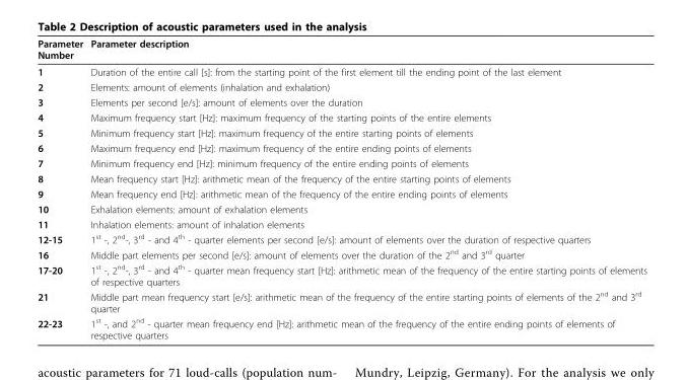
<table><thead><tr><td>Parameter Number</td><td>Parameter description</td></tr></thead><tbody><tr><td>1</td><td>Duration of the entire call [s]: from the starting point of the first element till the ending point of the last element</td></tr><tr><td>2</td><td>Elements: amount of elements (inhalation and exhalation)</td></tr><tr><td>3</td><td>Elements per second [e/s]: amount of elements over the duration</td></tr><tr><td>4</td><td>Maximum frequency start [Hz]: maximum frequency of the starting points of the entire elements</td></tr><tr><td>5</td><td>Minimum frequency start [Hz]: maximum frequency of the entire starting points of elements</td></tr><tr><td>6</td><td>Maximum frequency end [Hz]: maximum frequency of the entire ending points of elements</td></tr><tr><td>7</td><td>Minimum frequency end [Hz]: minimum frequency of the entire ending points of elements</td></tr><tr><td>8</td><td>Mean frequency start [Hz]: arithmetic mean of the frequency of the entire starting points of elements</td></tr><tr><td>9</td><td>Mean frequency end [Hz]: arithmetic mean of the frequency of the entire ending points of elements</td></tr><tr><td>10</td><td>Exhalation elements: amount of exhalation elements</td></tr><tr><td>11</td><td>Inhalation elements: amount of inhalation elements</td></tr><tr><td>12-15</td><td>1<sup>st</sup> -, 2<sup>nd</sup>-, 3<sup>rd</sup> - and 4<sup>th</sup> - quarter elements per second [e/s]: amount of elements over the duration of respective quarters</td></tr><tr><td>16</td><td>Middle part elements per second [e/s]: amount of elements over the duration of the 2<sup>nd</sup> and 3<sup>rd</sup> quarter</td></tr><tr><td>17-20</td><td>1<sup>st</sup> -, 2<sup>nd</sup>-, 3<sup>rd</sup> - and 4<sup>th</sup> - quarter mean frequency start [Hz]: arithmetic mean of the frequency of the entire starting points of elements of respective quarters</td></tr><tr><td>21</td><td>Middle part mean frequency start [e/s]: arithmetic mean of the frequency of the entire starting points of elements of the 2<sup>nd</sup> and 3<sup>rd</sup> quarter</td></tr><tr><td>22-23</td><td>1<sup>st</sup> -, and 2<sup>nd</sup> - quarter mean frequency end [Hz]: arithmetic mean of the frequency of the entire ending points of elements of respective quarters</td></tr></tbody></table>